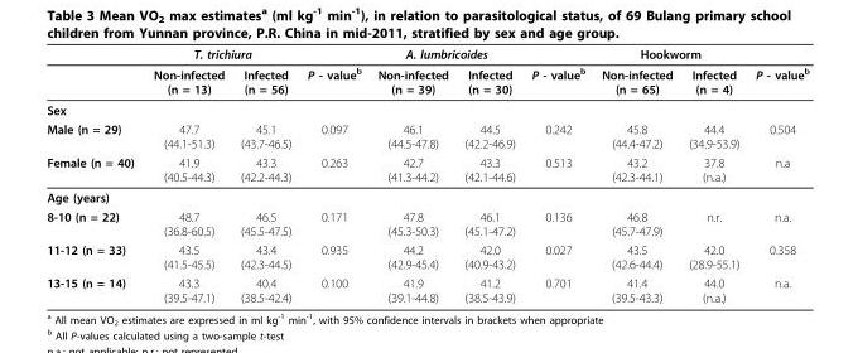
<table><thead><tr><td rowspan="2"></td><td colspan="2">T. trichiura</td><td rowspan="2">P - valueb</td><td colspan="2">A. lumbricoides</td><td rowspan="2">P - valueb</td><td colspan="2">Hookworm</td><td rowspan="2">P - valueb</td></tr><tr><td>Non-infected (n = 13)</td><td>Infected (n = 56)</td><td>Non-infected (n = 39)</td><td>Infected (n = 30)</td><td>Non-infected (n = 65)</td><td>Infected (n = 4)</td></tr></thead><tbody><tr><td colspan="10">Sex</td></tr><tr><td>Male (n = 29)</td><td>47.7 (44.1-51.3)</td><td>45.1 (43.7-46.5)</td><td>0.097</td><td>46.1 (44.5-47.8)</td><td>44.5 (42.2-46.9)</td><td>0.242</td><td>45.8 (44.4-47.2)</td><td>44.4 (34.9-53.9)</td><td>0.504</td></tr><tr><td>Female (n = 40)</td><td>41.9 (40.5-44.3)</td><td>43.3 (42.2-44.3)</td><td>0.263</td><td>42.7 (41.3-44.2)</td><td>43.3 (42.1-44.6)</td><td>0.513</td><td>43.2 (42.3-44.1)</td><td>37.8 (n.a.)</td><td>n.a</td></tr><tr><td colspan="10">Age (years)</td></tr><tr><td>8-10 (n = 22)</td><td>48.7 (36.8-60.5)</td><td>46.5 (45.5-47.5)</td><td>0.171</td><td>47.8 (45.3-50.3)</td><td>46.1 (45.1-47.2)</td><td>0.136</td><td>46.8 (45.7-47.9)</td><td>n.r.</td><td>n.a.</td></tr><tr><td>11-12 (n = 33)</td><td>43.5 (41.5-45.5)</td><td>43.4 (42.3-44.5)</td><td>0.935</td><td>44.2 (42.9-45.4)</td><td>42.0 (40.9-43.2)</td><td>0.027</td><td>43.5 (42.6-44.4)</td><td>42.0 (28.9-55.1)</td><td>0.358</td></tr><tr><td>13-15 (n = 14)</td><td>43.3 (39.5-47.1)</td><td>40.4 (38.5-42.4)</td><td>0.100</td><td>41.9 (39.1-44.8)</td><td>41.2 (38.5-43.9)</td><td>0.701</td><td>41.4 (39.5-43.3)</td><td>44.0 (n.a.)</td><td>n.a.</td></tr></tbody></table>